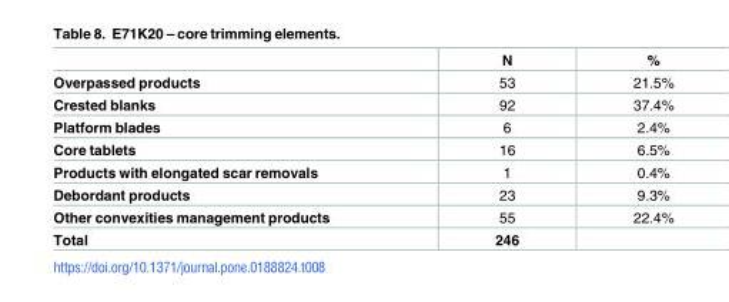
<table><thead><tr><td></td><td>N</td><td>%</td></tr></thead><tbody><tr><td>Overpassed products</td><td>53</td><td>21.5%</td></tr><tr><td>Crested blanks</td><td>92</td><td>37.4%</td></tr><tr><td>Platform blades</td><td>6</td><td>2.4%</td></tr><tr><td>Core tablets</td><td>16</td><td>6.5%</td></tr><tr><td>Products with elongated scar removals</td><td>1</td><td>0.4%</td></tr><tr><td>Debordant products</td><td>23</td><td>9.3%</td></tr><tr><td>Other convexities management products</td><td>55</td><td>22.4%</td></tr><tr><td>Total</td><td>246</td><td></td></tr></tbody></table>